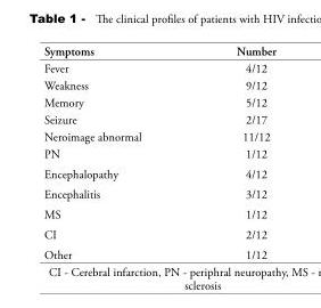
<table><thead><tr><td>Symptoms</td><td>Number</td></tr></thead><tbody><tr><td>Fever</td><td>4/12</td></tr><tr><td>Weakness</td><td>9/12</td></tr><tr><td>Memory</td><td>5/12</td></tr><tr><td>Seizure</td><td>2/17</td></tr><tr><td>Neroimage abnormal</td><td>11/12</td></tr><tr><td>PN</td><td>1/12</td></tr><tr><td>Encephalopathy</td><td>4/12</td></tr><tr><td>Encephalitis</td><td>3/12</td></tr><tr><td>MS</td><td>1/12</td></tr><tr><td>CI</td><td>2/12</td></tr><tr><td>Other</td><td>1/12</td></tr></tbody></table>